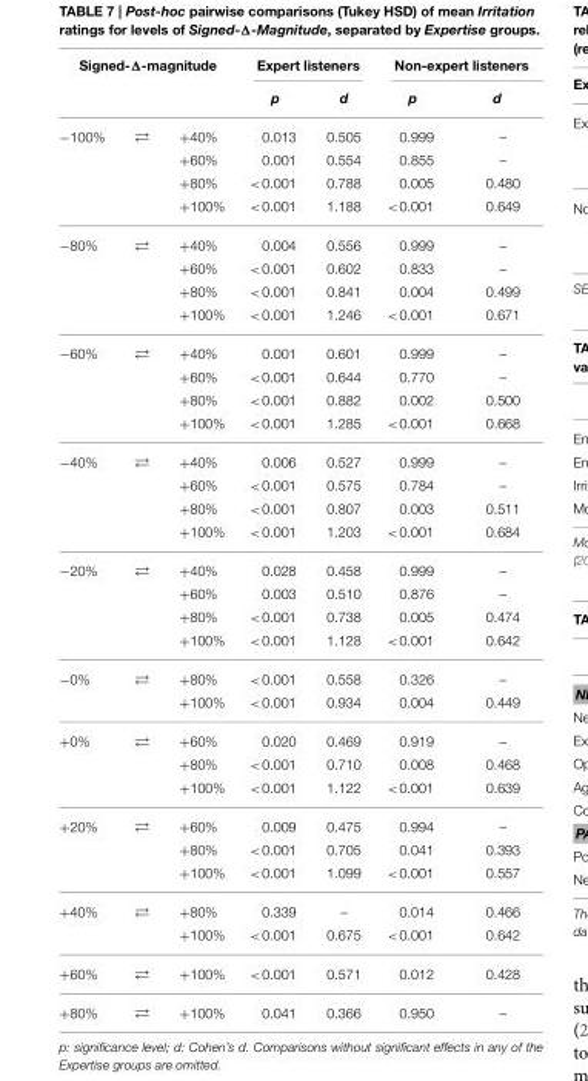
<table><thead><tr><td colspan="3">Signed-Δ-magnitude</td><td colspan="2">Expert listeners</td><td colspan="2">Non-expert listeners</td></tr><tr><td></td><td></td><td></td><td>p</td><td>d</td><td>p</td><td>d</td></tr></thead><tbody><tr><td rowspan="4">−100%</td><td>⇄</td><td>+40%</td><td>0.013</td><td>0.505</td><td>0.999</td><td>–</td></tr><tr><td></td><td>+60%</td><td>0.001</td><td>0.554</td><td>0.855</td><td>–</td></tr><tr><td></td><td>+80%</td><td>&lt;0.001</td><td>0.788</td><td>0.005</td><td>0.480</td></tr><tr><td></td><td>+100%</td><td>&lt;0.001</td><td>1.188</td><td>&lt;0.001</td><td>0.649</td></tr><tr><td rowspan="4">−80%</td><td>⇄</td><td>+40%</td><td>0.004</td><td>0.556</td><td>0.999</td><td>–</td></tr><tr><td></td><td>+60%</td><td>&lt;0.001</td><td>0.602</td><td>0.833</td><td>–</td></tr><tr><td></td><td>+80%</td><td>&lt;0.001</td><td>0.841</td><td>0.004</td><td>0.499</td></tr><tr><td></td><td>+100%</td><td>&lt;0.001</td><td>1.246</td><td>&lt;0.001</td><td>0.671</td></tr><tr><td rowspan="4">−60%</td><td>⇄</td><td>+40%</td><td>0.001</td><td>0.601</td><td>0.999</td><td>–</td></tr><tr><td></td><td>+60%</td><td>&lt;0.001</td><td>0.644</td><td>0.770</td><td>–</td></tr><tr><td></td><td>+80%</td><td>&lt;0.001</td><td>0.882</td><td>0.002</td><td>0.500</td></tr><tr><td></td><td>+100%</td><td>&lt;0.001</td><td>1.285</td><td>&lt;0.001</td><td>0.668</td></tr><tr><td rowspan="4">−40%</td><td>⇄</td><td>+40%</td><td>0.006</td><td>0.527</td><td>0.999</td><td>–</td></tr><tr><td></td><td>+60%</td><td>&lt;0.001</td><td>0.575</td><td>0.784</td><td>–</td></tr><tr><td></td><td>+80%</td><td>&lt;0.001</td><td>0.807</td><td>0.003</td><td>0.511</td></tr><tr><td></td><td>+100%</td><td>&lt;0.001</td><td>1.203</td><td>&lt;0.001</td><td>0.684</td></tr><tr><td rowspan="4">−20%</td><td>⇄</td><td>+40%</td><td>0.028</td><td>0.458</td><td>0.999</td><td>–</td></tr><tr><td></td><td>+60%</td><td>0.003</td><td>0.510</td><td>0.876</td><td>–</td></tr><tr><td></td><td>+80%</td><td>&lt;0.001</td><td>0.738</td><td>0.005</td><td>0.474</td></tr><tr><td></td><td>+100%</td><td>&lt;0.001</td><td>1.128</td><td>&lt;0.001</td><td>0.642</td></tr><tr><td rowspan="2">−0%</td><td>⇄</td><td>+80%</td><td>&lt;0.001</td><td>0.558</td><td>0.326</td><td>–</td></tr><tr><td></td><td>+100%</td><td>&lt;0.001</td><td>0.934</td><td>0.004</td><td>0.449</td></tr><tr><td rowspan="3">+0%</td><td>⇄</td><td>+60%</td><td>0.020</td><td>0.469</td><td>0.919</td><td>–</td></tr><tr><td></td><td>+80%</td><td>&lt;0.001</td><td>0.710</td><td>0.008</td><td>0.468</td></tr><tr><td></td><td>+100%</td><td>&lt;0.001</td><td>1.122</td><td>&lt;0.001</td><td>0.639</td></tr><tr><td rowspan="3">+20%</td><td>⇄</td><td>+60%</td><td>0.009</td><td>0.475</td><td>0.994</td><td>–</td></tr><tr><td></td><td>+80%</td><td>&lt;0.001</td><td>0.705</td><td>0.041</td><td>0.393</td></tr><tr><td></td><td>+100%</td><td>&lt;0.001</td><td>1.099</td><td>&lt;0.001</td><td>0.557</td></tr><tr><td rowspan="2">+40%</td><td>⇄</td><td>+80%</td><td>0.339</td><td>–</td><td>0.014</td><td>0.466</td></tr><tr><td></td><td>+100%</td><td>&lt;0.001</td><td>0.675</td><td>&lt;0.001</td><td>0.642</td></tr><tr><td>+60%</td><td>⇄</td><td>+100%</td><td>&lt;0.001</td><td>0.571</td><td>0.012</td><td>0.428</td></tr><tr><td>+80%</td><td>⇄</td><td>+100%</td><td>0.041</td><td>0.366</td><td>0.950</td><td>–</td></tr></tbody></table>